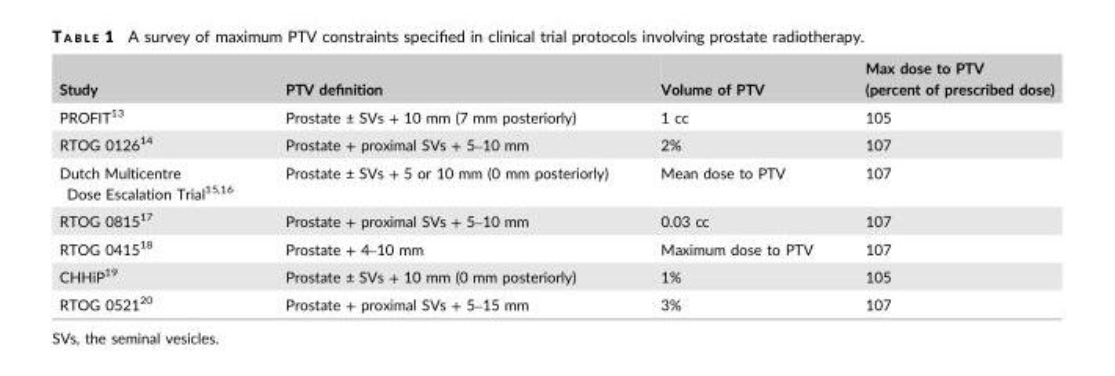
<table><thead><tr><td>Study</td><td>PTV definition</td><td>Volume of PTV</td><td>Max dose to PTV (percent of prescribed dose)</td></tr></thead><tbody><tr><td>PROFIT<sup>13</sup></td><td>Prostate ± SVs + 10 mm (7 mm posteriorly)</td><td>1 cc</td><td>105</td></tr><tr><td>RTOG 0126<sup>14</sup></td><td>Prostate + proximal SVs + 5–10 mm</td><td>2%</td><td>107</td></tr><tr><td>Dutch Multicentre Dose Escalation Trial<sup>15</sup>,<sup>16</sup></td><td>Prostate ± SVs + 5 or 10 mm (0 mm posteriorly)</td><td>Mean dose to PTV</td><td>107</td></tr><tr><td>RTOG 0815<sup>17</sup></td><td>Prostate + proximal SVs + 5–10 mm</td><td>0.03 cc</td><td>107</td></tr><tr><td>RTOG 0415<sup>18</sup></td><td>Prostate + 4–10 mm</td><td>Maximum dose to PTV</td><td>107</td></tr><tr><td>CHHiP<sup>19</sup></td><td>Prostate ± SVs + 10 mm (0 mm posteriorly)</td><td>1%</td><td>105</td></tr><tr><td>RTOG 0521<sup>20</sup></td><td>Prostate + proximal SVs + 5–15 mm</td><td>3%</td><td>107</td></tr></tbody></table>